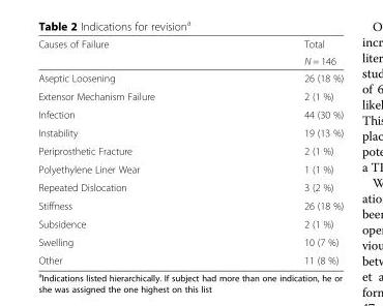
<table><thead><tr><td rowspan="2">Causes of Failure</td><td rowspan="2">Total N = 146</td></tr><tr></tr></thead><tbody><tr><td>Aseptic Loosening</td><td>26 (18 %)</td></tr><tr><td>Extensor Mechanism Failure</td><td>2 (1 %)</td></tr><tr><td>Infection</td><td>44 (30 %)</td></tr><tr><td>Instability</td><td>19 (13 %)</td></tr><tr><td>Periprosthetic Fracture</td><td>2 (1 %)</td></tr><tr><td>Polyethylene Liner Wear</td><td>1 (1 %)</td></tr><tr><td>Repeated Dislocation</td><td>3 (2 %)</td></tr><tr><td>Stiffness</td><td>26 (18 %)</td></tr><tr><td>Subsidence</td><td>2 (1 %)</td></tr><tr><td>Swelling</td><td>10 (7 %)</td></tr><tr><td>Other</td><td>11 (8 %)</td></tr></tbody></table>